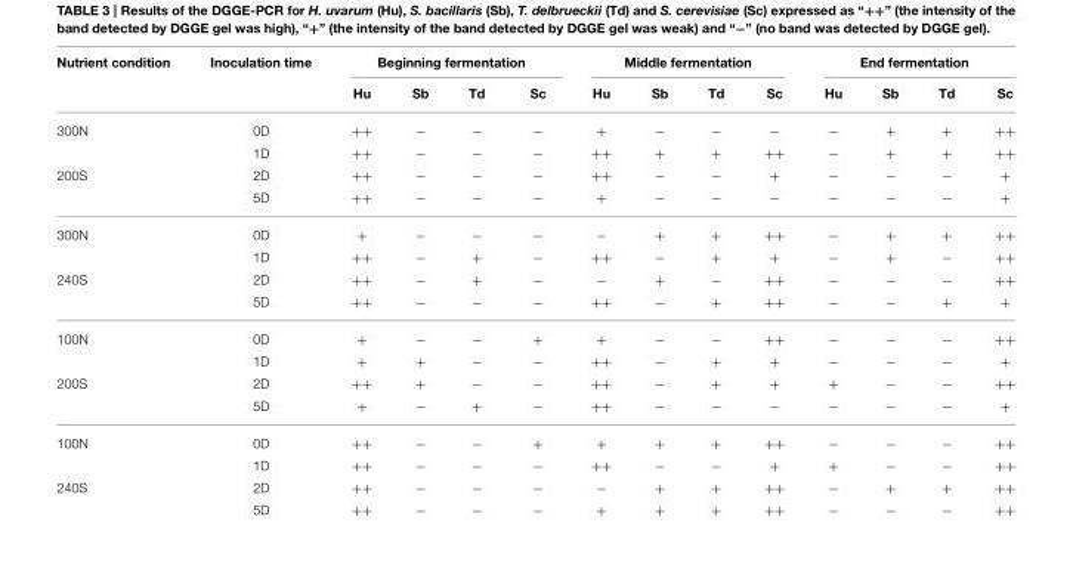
<table><thead><tr><td rowspan="2">Nutrient condition</td><td rowspan="2">Inoculation time</td><td colspan="4">Beginning fermentation</td><td colspan="4">Middle fermentation</td><td colspan="4">End fermentation</td></tr><tr><td>Hu</td><td>Sb</td><td>Td</td><td>Sc</td><td>Hu</td><td>Sb</td><td>Td</td><td>Sc</td><td>Hu</td><td>Sb</td><td>Td</td><td>Sc</td></tr></thead><tbody><tr><td rowspan="2">300N</td><td>0D</td><td>++</td><td>−</td><td>−</td><td>−</td><td>+</td><td>−</td><td>−</td><td>−</td><td>−</td><td>+</td><td>+</td><td>++</td></tr><tr><td>1D</td><td>++</td><td>−</td><td>−</td><td>−</td><td>++</td><td>+</td><td>+</td><td>++</td><td>−</td><td>+</td><td>+</td><td>++</td></tr><tr><td rowspan="2">200S</td><td>2D</td><td>++</td><td>−</td><td>−</td><td>−</td><td>++</td><td>−</td><td>−</td><td>+</td><td>−</td><td>−</td><td>−</td><td>+</td></tr><tr><td>5D</td><td>++</td><td>−</td><td>−</td><td>−</td><td>+</td><td>−</td><td>−</td><td>−</td><td>−</td><td>−</td><td>−</td><td>+</td></tr><tr><td rowspan="2">300N</td><td>0D</td><td>+</td><td>−</td><td>−</td><td>−</td><td>−</td><td>+</td><td>+</td><td>++</td><td>−</td><td>+</td><td>+</td><td>++</td></tr><tr><td>1D</td><td>++</td><td>−</td><td>+</td><td>−</td><td>++</td><td>−</td><td>+</td><td>+</td><td>−</td><td>+</td><td>−</td><td>++</td></tr><tr><td rowspan="2">240S</td><td>2D</td><td>++</td><td>−</td><td>+</td><td>−</td><td>−</td><td>+</td><td>−</td><td>++</td><td>−</td><td>−</td><td>−</td><td>++</td></tr><tr><td>5D</td><td>++</td><td>−</td><td>−</td><td>−</td><td>++</td><td>−</td><td>+</td><td>++</td><td>−</td><td>−</td><td>+</td><td>+</td></tr><tr><td rowspan="2">100N</td><td>0D</td><td>+</td><td>−</td><td>−</td><td>+</td><td>+</td><td>−</td><td>−</td><td>++</td><td>−</td><td>−</td><td>−</td><td>++</td></tr><tr><td>1D</td><td>+</td><td>+</td><td>−</td><td>−</td><td>++</td><td>−</td><td>+</td><td>+</td><td>−</td><td>−</td><td>−</td><td>+</td></tr><tr><td rowspan="2">200S</td><td>2D</td><td>++</td><td>+</td><td>−</td><td>−</td><td>++</td><td>−</td><td>+</td><td>+</td><td>+</td><td>−</td><td>−</td><td>++</td></tr><tr><td>5D</td><td>+</td><td>−</td><td>+</td><td>−</td><td>++</td><td>−</td><td>−</td><td>−</td><td>−</td><td>−</td><td>−</td><td>+</td></tr><tr><td rowspan="2">100N</td><td>0D</td><td>++</td><td>−</td><td>−</td><td>+</td><td>+</td><td>+</td><td>+</td><td>++</td><td>−</td><td>−</td><td>−</td><td>++</td></tr><tr><td>1D</td><td>++</td><td>−</td><td>−</td><td>−</td><td>++</td><td>−</td><td>−</td><td>+</td><td>+</td><td>−</td><td>−</td><td>++</td></tr><tr><td rowspan="2">240S</td><td>2D</td><td>++</td><td>−</td><td>−</td><td>−</td><td>−</td><td>+</td><td>+</td><td>++</td><td>−</td><td>+</td><td>+</td><td>++</td></tr><tr><td>5D</td><td>++</td><td>−</td><td>−</td><td>−</td><td>+</td><td>+</td><td>+</td><td>++</td><td>−</td><td>−</td><td>−</td><td>++</td></tr></tbody></table>